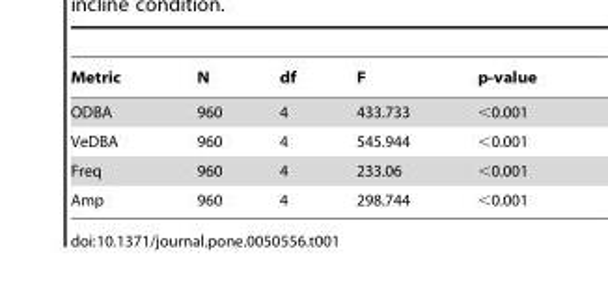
<table><thead><tr><td>Metric</td><td>N</td><td>df</td><td>F</td><td>p-value</td></tr></thead><tbody><tr><td>ODBA</td><td>960</td><td>4</td><td>433.733</td><td>&lt;0.001</td></tr><tr><td>VeDBA</td><td>960</td><td>4</td><td>545.944</td><td>&lt;0.001</td></tr><tr><td>Freq</td><td>960</td><td>4</td><td>233.06</td><td>&lt;0.001</td></tr><tr><td>Amp</td><td>960</td><td>4</td><td>298.744</td><td>&lt;0.001</td></tr></tbody></table>